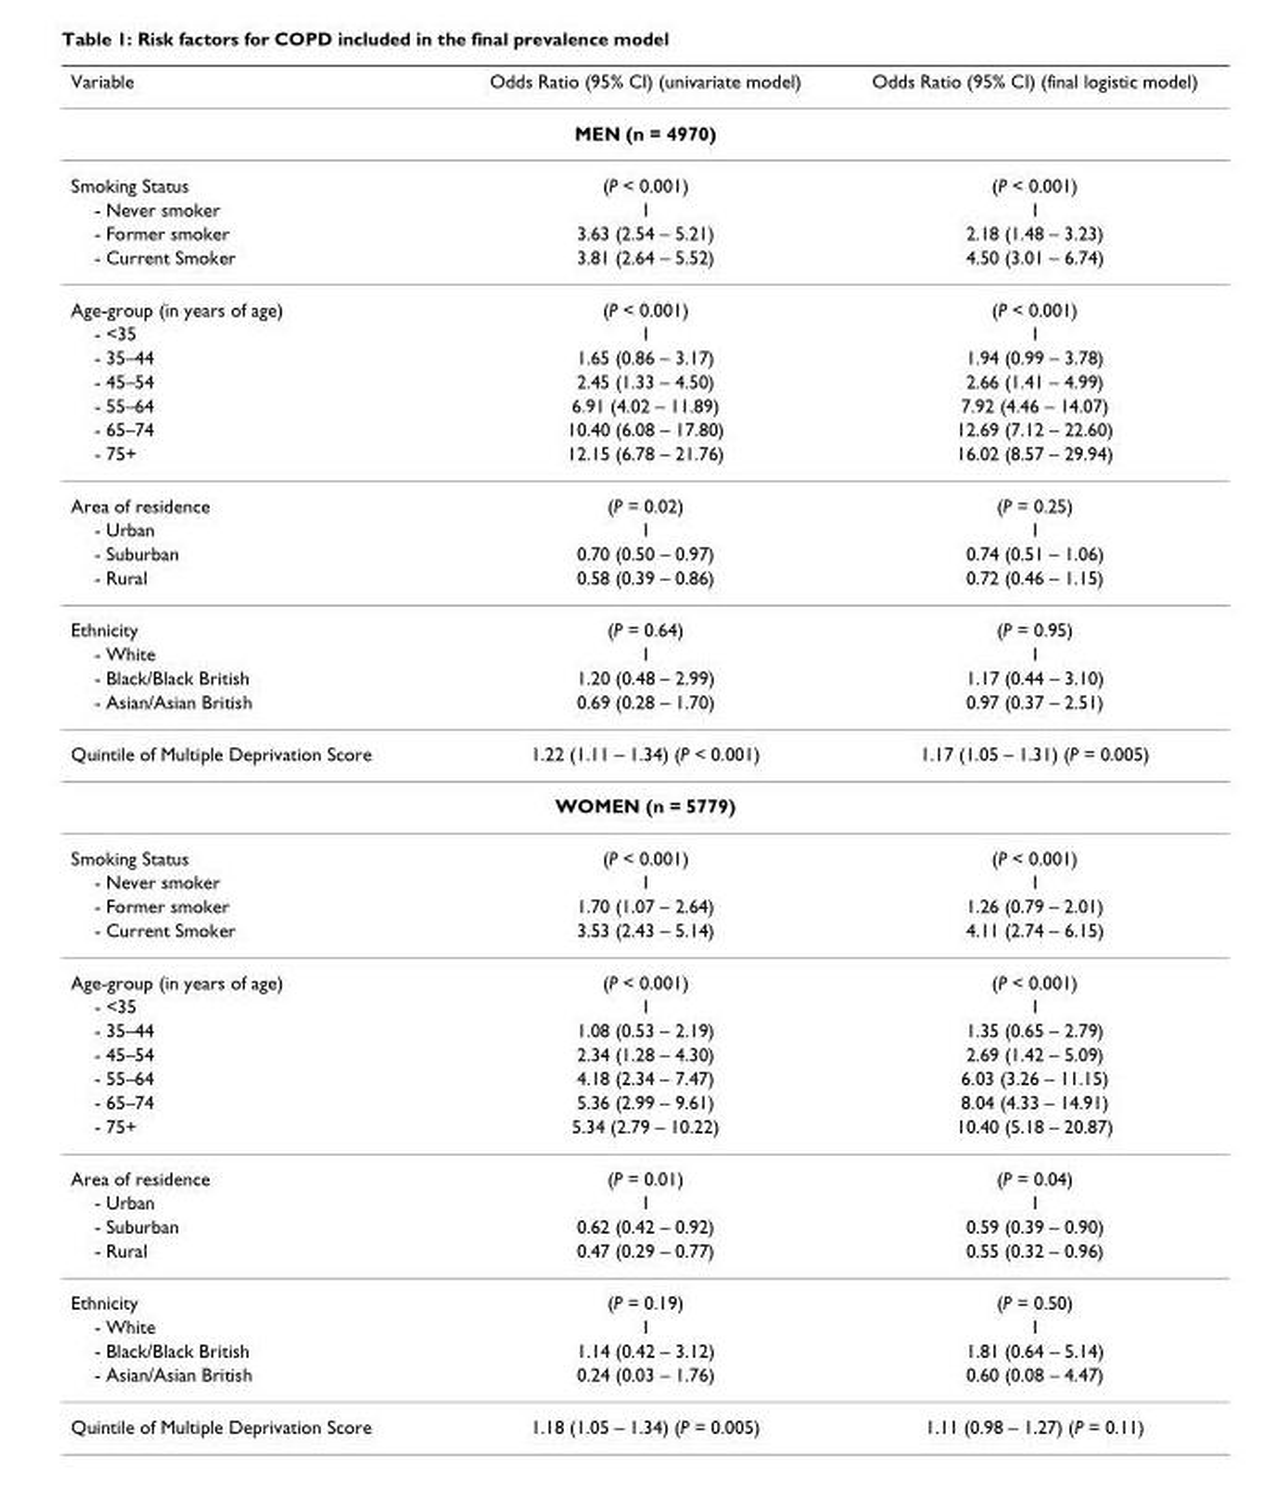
<table><thead><tr><td>Variable</td><td>Odds Ratio (95% CI) (univariate model)</td><td>Odds Ratio (95% CI) (final logistic model)</td></tr></thead><tbody><tr><td colspan="3">MEN (n = 4970)</td></tr><tr><td>Smoking Status</td><td>(P &lt; 0.001)</td><td>(P &lt; 0.001)</td></tr><tr><td>- Never smoker</td><td>1</td><td>1</td></tr><tr><td>- Former smoker</td><td>3.63 (2.54 – 5.21)</td><td>2.18 (1.48 – 3.23)</td></tr><tr><td>- Current Smoker</td><td>3.81 (2.64 – 5.52)</td><td>4.50 (3.01 – 6.74)</td></tr><tr><td>Age-group (in years of age)</td><td>(P &lt; 0.001)</td><td>(P &lt; 0.001)</td></tr><tr><td>- &lt;35</td><td>1</td><td>1</td></tr><tr><td>- 35–44</td><td>1.65 (0.86 – 3.17)</td><td>1.94 (0.99 – 3.78)</td></tr><tr><td>- 45–54</td><td>2.45 (1.33 – 4.50)</td><td>2.66 (1.41 – 4.99)</td></tr><tr><td>- 55–64</td><td>6.91 (4.02 – 11.89)</td><td>7.92 (4.46 – 14.07)</td></tr><tr><td>- 65–74</td><td>10.40 (6.08 – 17.80)</td><td>12.69 (7.12 – 22.60)</td></tr><tr><td>- 75+</td><td>12.15 (6.78 – 21.76)</td><td>16.02 (8.57 – 29.94)</td></tr><tr><td>Area of residence</td><td>(P = 0.02)</td><td>(P = 0.25)</td></tr><tr><td>- Urban</td><td>1</td><td>1</td></tr><tr><td>- Suburban</td><td>0.70 (0.50 – 0.97)</td><td>0.74 (0.51 – 1.06)</td></tr><tr><td>- Rural</td><td>0.58 (0.39 – 0.86)</td><td>0.72 (0.46 – 1.15)</td></tr><tr><td>Ethnicity</td><td>(P = 0.64)</td><td>(P = 0.95)</td></tr><tr><td>- White</td><td>1</td><td>1</td></tr><tr><td>- Black/Black British</td><td>1.20 (0.48 – 2.99)</td><td>1.17 (0.44 – 3.10)</td></tr><tr><td>- Asian/Asian British</td><td>0.69 (0.28 – 1.70)</td><td>0.97 (0.37 – 2.51)</td></tr><tr><td>Quintile of Multiple Deprivation Score</td><td>1.22 (1.11 – 1.34) (P &lt; 0.001)</td><td>1.17 (1.05 – 1.31) (P = 0.005)</td></tr><tr><td colspan="3">WOMEN (n = 5779)</td></tr><tr><td>Smoking Status</td><td>(P &lt; 0.001)</td><td>(P &lt; 0.001)</td></tr><tr><td>- Never smoker</td><td>1</td><td>1</td></tr><tr><td>- Former smoker</td><td>1.70 (1.07 – 2.64)</td><td>1.26 (0.79 – 2.01)</td></tr><tr><td>- Current Smoker</td><td>3.53 (2.43 – 5.14)</td><td>4.11 (2.74 – 6.15)</td></tr><tr><td>Age-group (in years of age)</td><td>(P &lt; 0.001)</td><td>(P &lt; 0.001)</td></tr><tr><td>- &lt;35</td><td>1</td><td>1</td></tr><tr><td>- 35–44</td><td>1.08 (0.53 – 2.19)</td><td>1.35 (0.65 – 2.79)</td></tr><tr><td>- 45–54</td><td>2.34 (1.28 – 4.30)</td><td>2.69 (1.42 – 5.09)</td></tr><tr><td>- 55–64</td><td>4.18 (2.34 – 7.47)</td><td>6.03 (3.26 – 11.15)</td></tr><tr><td>- 65–74</td><td>5.36 (2.99 – 9.61)</td><td>8.04 (4.33 – 14.91)</td></tr><tr><td>- 75+</td><td>5.34 (2.79 – 10.22)</td><td>10.40 (5.18 – 20.87)</td></tr><tr><td>Area of residence</td><td>(P = 0.01)</td><td>(P = 0.04)</td></tr><tr><td>- Urban</td><td>1</td><td>1</td></tr><tr><td>- Suburban</td><td>0.62 (0.42 – 0.92)</td><td>0.59 (0.39 – 0.90)</td></tr><tr><td>- Rural</td><td>0.47 (0.29 – 0.77)</td><td>0.55 (0.32 – 0.96)</td></tr><tr><td>Ethnicity</td><td>(P = 0.19)</td><td>(P = 0.50)</td></tr><tr><td>- White</td><td>1</td><td>1</td></tr><tr><td>- Black/Black British</td><td>1.14 (0.42 – 3.12)</td><td>1.81 (0.64 – 5.14)</td></tr><tr><td>- Asian/Asian British</td><td>0.24 (0.03 – 1.76)</td><td>0.60 (0.08 – 4.47)</td></tr><tr><td>Quintile of Multiple Deprivation Score</td><td>1.18 (1.05 – 1.34) (P = 0.005)</td><td>1.11 (0.98 – 1.27) (P = 0.11)</td></tr></tbody></table>